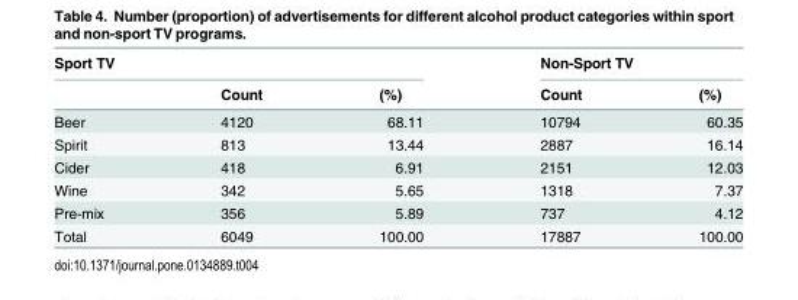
<table><thead><tr><td colspan="3">Sport TV</td><td colspan="2">Non-Sport TV</td></tr><tr><td></td><td>Count</td><td>(%)</td><td>Count</td><td>(%)</td></tr></thead><tbody><tr><td>Beer</td><td>4120</td><td>68.11</td><td>10794</td><td>60.35</td></tr><tr><td>Spirit</td><td>813</td><td>13.44</td><td>2887</td><td>16.14</td></tr><tr><td>Cider</td><td>418</td><td>6.91</td><td>2151</td><td>12.03</td></tr><tr><td>Wine</td><td>342</td><td>5.65</td><td>1318</td><td>7.37</td></tr><tr><td>Pre-mix</td><td>356</td><td>5.89</td><td>737</td><td>4.12</td></tr><tr><td>Total</td><td>6049</td><td>100.00</td><td>17887</td><td>100.00</td></tr></tbody></table>